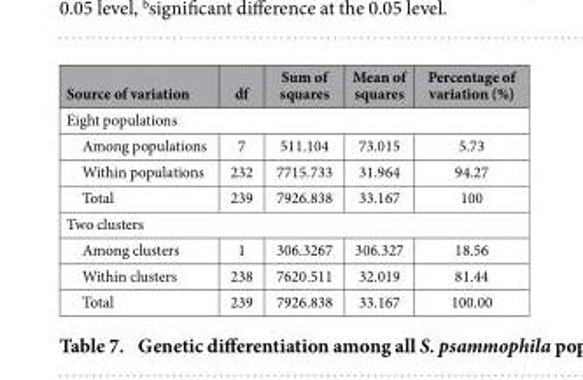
<table><thead><tr><td>Source of variation</td><td>df</td><td>Sum of squares</td><td>Mean of squares</td><td>Percentage of variation (%)</td></tr></thead><tbody><tr><td colspan="5">Eight populations</td></tr><tr><td>Among populations</td><td>7</td><td>511.104</td><td>73.015</td><td>5.73</td></tr><tr><td>Within populations</td><td>232</td><td>7715.733</td><td>31.964</td><td>94.27</td></tr><tr><td>Total</td><td>239</td><td>7926.838</td><td>33.167</td><td>100</td></tr><tr><td colspan="5">Two clusters</td></tr><tr><td>Among clusters</td><td>1</td><td>306.3267</td><td>306.327</td><td>18.56</td></tr><tr><td>Within clusters</td><td>238</td><td>7620.511</td><td>32.019</td><td>81.44</td></tr><tr><td>Total</td><td>239</td><td>7926.838</td><td>33.167</td><td>100.00</td></tr></tbody></table>